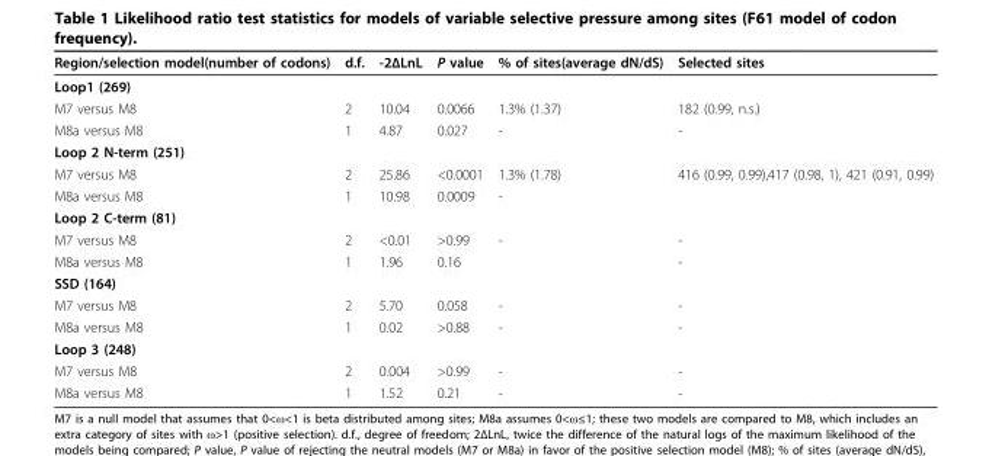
<table><thead><tr><td>Region/selection model(number of codons)</td><td>d.f.</td><td>-2ΔLnL</td><td>P value</td><td>% of sites(average dN/dS)</td><td>Selected sites</td></tr></thead><tbody><tr><td colspan="6">Loop1 (269)</td></tr><tr><td>M7 versus M8</td><td>2</td><td>10.04</td><td>0.0066</td><td>1.3% (1.37)</td><td>182 (0.99, n.s.)</td></tr><tr><td>M8a versus M8</td><td>1</td><td>4.87</td><td>0.027</td><td>-</td><td>-</td></tr><tr><td colspan="6">Loop 2 N-term (251)</td></tr><tr><td>M7 versus M8</td><td>2</td><td>25.86</td><td>&lt;0.0001</td><td>1.3% (1.78)</td><td>416 (0.99, 0.99),417 (0.98, 1), 421 (0.91, 0.99)</td></tr><tr><td>M8a versus M8</td><td>1</td><td>10.98</td><td>0.0009</td><td>-</td><td></td></tr><tr><td colspan="6">Loop 2 C-term (81)</td></tr><tr><td>M7 versus M8</td><td>2</td><td>&lt;0.01</td><td>&gt;0.99</td><td>-</td><td>-</td></tr><tr><td>M8a versus M8</td><td>1</td><td>1.96</td><td>0.16</td><td></td><td>-</td></tr><tr><td colspan="6">SSD (164)</td></tr><tr><td>M7 versus M8</td><td>2</td><td>5.70</td><td>0.058</td><td>-</td><td>-</td></tr><tr><td>M8a versus M8</td><td>1</td><td>0.02</td><td>&gt;0.88</td><td>-</td><td>-</td></tr><tr><td colspan="6">Loop 3 (248)</td></tr><tr><td>M7 versus M8</td><td>2</td><td>0.004</td><td>&gt;0.99</td><td>-</td><td>-</td></tr><tr><td>M8a versus M8</td><td>1</td><td>1.52</td><td>0.21</td><td>-</td><td>-</td></tr></tbody></table>